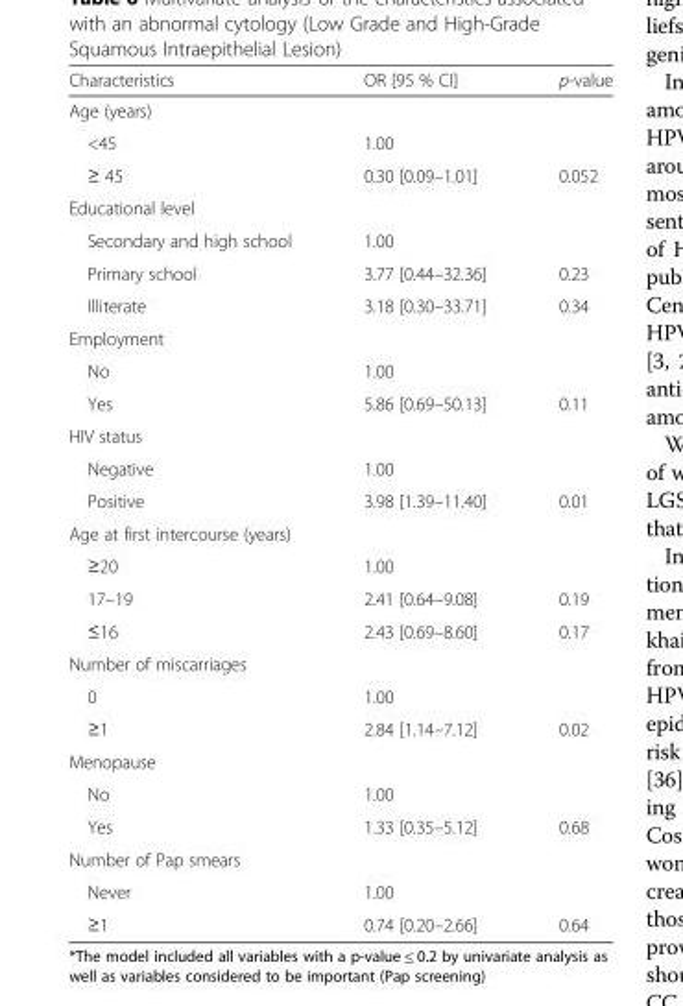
<table><thead><tr><td>Characteristics</td><td>OR [95 % CI]</td><td>p-value</td></tr></thead><tbody><tr><td colspan="3">Age (years)</td></tr><tr><td>&lt;45</td><td>1.00</td><td></td></tr><tr><td>≥ 45</td><td>0.30 [0.09–1.01]</td><td>0.052</td></tr><tr><td colspan="3">Educational level</td></tr><tr><td>Secondary and high school</td><td>1.00</td><td></td></tr><tr><td>Primary school</td><td>3.77 [0.44–32.36]</td><td>0.23</td></tr><tr><td>Illiterate</td><td>3.18 [0.30–33.71]</td><td>0.34</td></tr><tr><td colspan="3">Employment</td></tr><tr><td>No</td><td>1.00</td><td></td></tr><tr><td>Yes</td><td>5.86 [0.69–50.13]</td><td>0.11</td></tr><tr><td colspan="3">HIV status</td></tr><tr><td>Negative</td><td>1.00</td><td></td></tr><tr><td>Positive</td><td>3.98 [1.39–11.40]</td><td>0.01</td></tr><tr><td colspan="3">Age at first intercourse (years)</td></tr><tr><td>≥20</td><td>1.00</td><td></td></tr><tr><td>17–19</td><td>2.41 [0.64–9.08]</td><td>0.19</td></tr><tr><td>≤16</td><td>2.43 [0.69–8.60]</td><td>0.17</td></tr><tr><td colspan="3">Number of miscarriages</td></tr><tr><td>0</td><td>1.00</td><td></td></tr><tr><td>≥1</td><td>2.84 [1.14–7.12]</td><td>0.02</td></tr><tr><td colspan="3">Menopause</td></tr><tr><td>No</td><td>1.00</td><td></td></tr><tr><td>Yes</td><td>1.33 [0.35–5.12]</td><td>0.68</td></tr><tr><td colspan="3">Number of Pap smears</td></tr><tr><td>Never</td><td>1.00</td><td></td></tr><tr><td>≥1</td><td>0.74 [0.20–2.66]</td><td>0.64</td></tr></tbody></table>